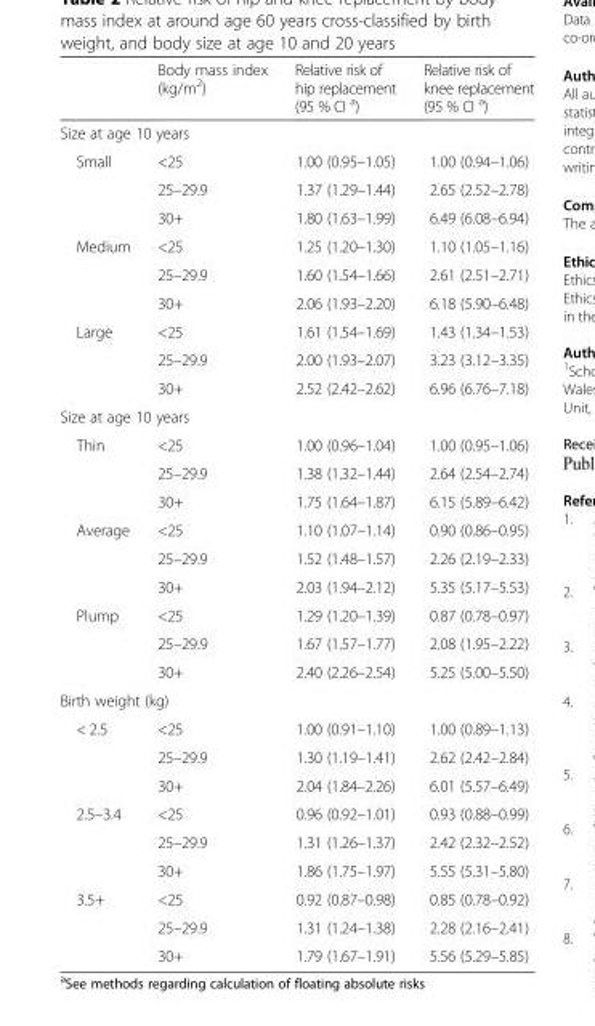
<table><thead><tr><td></td><td>Body mass index (kg/m<sup>2</sup>)</td><td>Relative risk of hip replacement (95 % CI <sup>a</sup>)</td><td>Relative risk of knee replacement (95 % CI <sup>a</sup>)</td></tr></thead><tbody><tr><td colspan="4">Size at age 10 years</td></tr><tr><td rowspan="3">Small</td><td>&lt;25</td><td>1.00 (0.95–1.05)</td><td>1.00 (0.94–1.06)</td></tr><tr><td>25–29.9</td><td>1.37 (1.29–1.44)</td><td>2.65 (2.52–2.78)</td></tr><tr><td>30+</td><td>1.80 (1.63–1.99)</td><td>6.49 (6.08–6.94)</td></tr><tr><td rowspan="3">Medium</td><td>&lt;25</td><td>1.25 (1.20–1.30)</td><td>1.10 (1.05–1.16)</td></tr><tr><td>25–29.9</td><td>1.60 (1.54–1.66)</td><td>2.61 (2.51–2.71)</td></tr><tr><td>30+</td><td>2.06 (1.93–2.20)</td><td>6.18 (5.90–6.48)</td></tr><tr><td rowspan="3">Large</td><td>&lt;25</td><td>1.61 (1.54–1.69)</td><td>1.43 (1.34–1.53)</td></tr><tr><td>25–29.9</td><td>2.00 (1.93–2.07)</td><td>3.23 (3.12–3.35)</td></tr><tr><td>30+</td><td>2.52 (2.42–2.62)</td><td>6.96 (6.76–7.18)</td></tr><tr><td colspan="4">Size at age 10 years</td></tr><tr><td rowspan="3">Thin</td><td>&lt;25</td><td>1.00 (0.96–1.04)</td><td>1.00 (0.95–1.06)</td></tr><tr><td>25–29.9</td><td>1.38 (1.32–1.44)</td><td>2.64 (2.54–2.74)</td></tr><tr><td>30+</td><td>1.75 (1.64–1.87)</td><td>6.15 (5.89–6.42)</td></tr><tr><td rowspan="3">Average</td><td>&lt;25</td><td>1.10 (1.07–1.14)</td><td>0.90 (0.86–0.95)</td></tr><tr><td>25–29.9</td><td>1.52 (1.48–1.57)</td><td>2.26 (2.19–2.33)</td></tr><tr><td>30+</td><td>2.03 (1.94–2.12)</td><td>5.35 (5.17–5.53)</td></tr><tr><td rowspan="3">Plump</td><td>&lt;25</td><td>1.29 (1.20–1.39)</td><td>0.87 (0.78–0.97)</td></tr><tr><td>25–29.9</td><td>1.67 (1.57–1.77)</td><td>2.08 (1.95–2.22)</td></tr><tr><td>30+</td><td>2.40 (2.26–2.54)</td><td>5.25 (5.00–5.50)</td></tr><tr><td colspan="4">Birth weight (kg)</td></tr><tr><td rowspan="3">&lt; 2.5</td><td>&lt;25</td><td>1.00 (0.91–1.10)</td><td>1.00 (0.89–1.13)</td></tr><tr><td>25–29.9</td><td>1.30 (1.19–1.41)</td><td>2.62 (2.42–2.84)</td></tr><tr><td>30+</td><td>2.04 (1.84–2.26)</td><td>6.01 (5.57–6.49)</td></tr><tr><td rowspan="3">2.5–3.4</td><td>&lt;25</td><td>0.96 (0.92–1.01)</td><td>0.93 (0.88–0.99)</td></tr><tr><td>25–29.9</td><td>1.31 (1.26–1.37)</td><td>2.42 (2.32–2.52)</td></tr><tr><td>30+</td><td>1.86 (1.75–1.97)</td><td>5.55 (5.31–5.80)</td></tr><tr><td rowspan="3">3.5+</td><td>&lt;25</td><td>0.92 (0.87–0.98)</td><td>0.85 (0.78–0.92)</td></tr><tr><td>25–29.9</td><td>1.31 (1.24–1.38)</td><td>2.28 (2.16–2.41)</td></tr><tr><td>30+</td><td>1.79 (1.67–1.91)</td><td>5.56 (5.29–5.85)</td></tr></tbody></table>